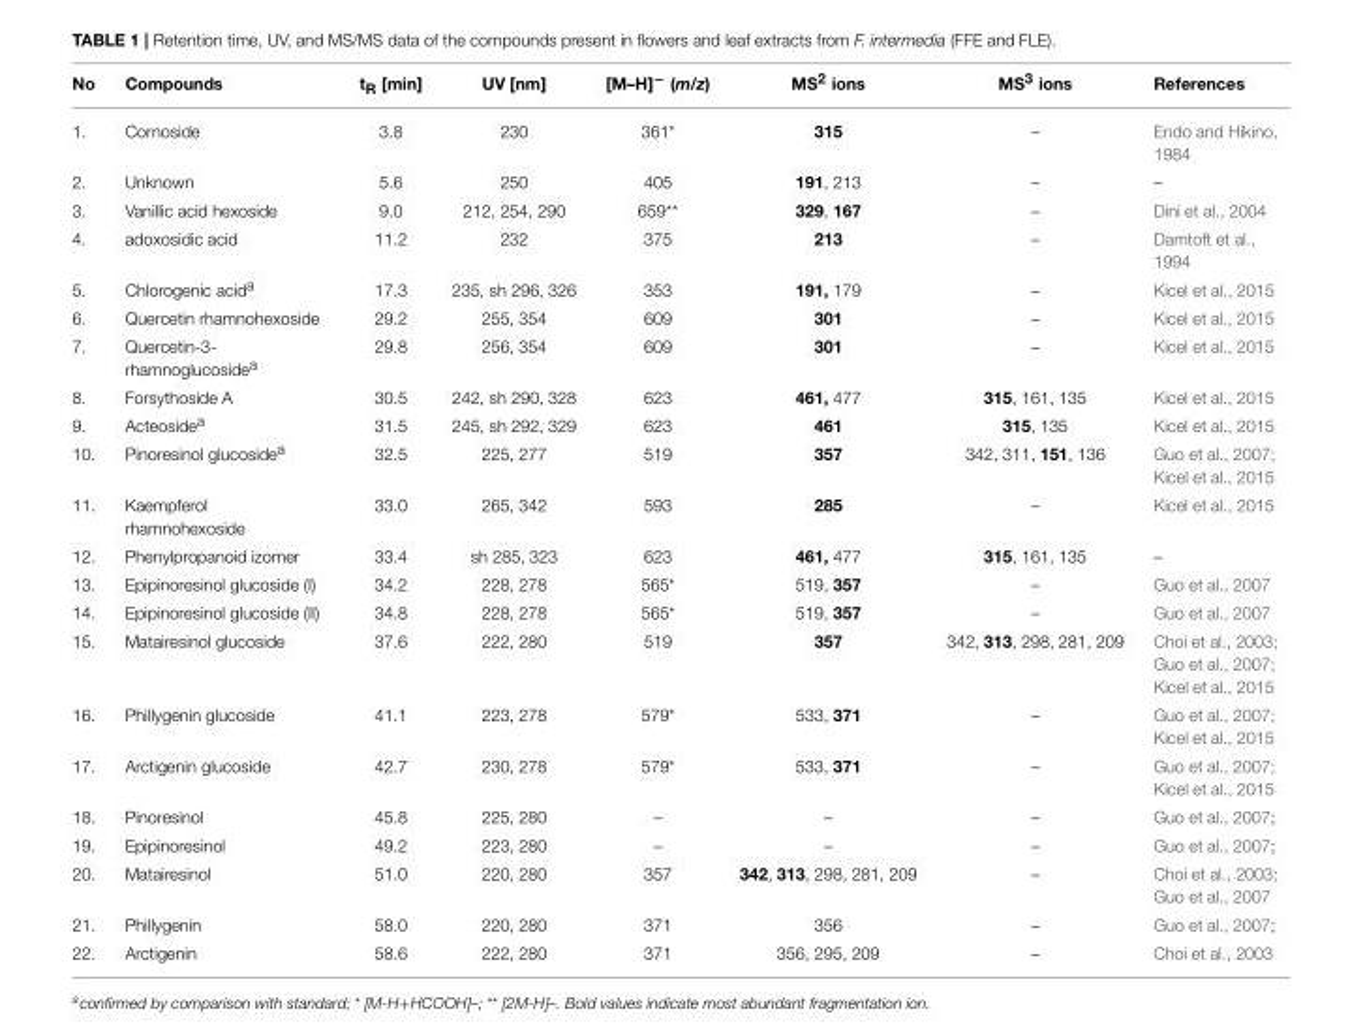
<table><thead><tr><td>No</td><td>Compounds</td><td>t<sub>R</sub> [min]</td><td>UV [nm]</td><td>[M–H]<sup>−</sup> (m/z)</td><td>MS<sup>2</sup> ions</td><td>MS<sup>3</sup> ions</td><td>References</td></tr></thead><tbody><tr><td>1.</td><td>Cornoside</td><td>3.8</td><td>230</td><td>361*</td><td>315</td><td>–</td><td>Endo and Hikino, 1984</td></tr><tr><td>2.</td><td>Unknown</td><td>5.6</td><td>250</td><td>405</td><td>191, 213</td><td>–</td><td>–</td></tr><tr><td>3.</td><td>Vanillic acid hexoside</td><td>9.0</td><td>212, 254, 290</td><td>659**</td><td>329, 167</td><td>–</td><td>Dini et al., 2004</td></tr><tr><td>4.</td><td>adoxosidic acid</td><td>11.2</td><td>232</td><td>375</td><td>213</td><td>–</td><td>Damtoft et al., 1994</td></tr><tr><td>5.</td><td>Chlorogenic acid<sup>a</sup></td><td>17.3</td><td>235, sh 296, 326</td><td>353</td><td>191, 179</td><td>–</td><td>Kicel et al., 2015</td></tr><tr><td>6.</td><td>Quercetin rhamnohexoside</td><td>29.2</td><td>255, 354</td><td>609</td><td>301</td><td>–</td><td>Kicel et al., 2015</td></tr><tr><td>7.</td><td>Quercetin-3- rhamnoglucoside<sup>a</sup></td><td>29.8</td><td>256, 354</td><td>609</td><td>301</td><td>–</td><td>Kicel et al., 2015</td></tr><tr><td>8.</td><td>Forsythoside A</td><td>30.5</td><td>242, sh 290, 328</td><td>623</td><td>461, 477</td><td>315, 161, 135</td><td>Kicel et al., 2015</td></tr><tr><td>9.</td><td>Acteoside<sup>a</sup></td><td>31.5</td><td>245, sh 292, 329</td><td>623</td><td>461</td><td>315, 135</td><td>Kicel et al., 2015</td></tr><tr><td>10.</td><td>Pinoresinol glucoside<sup>a</sup></td><td>32.5</td><td>225, 277</td><td>519</td><td>357</td><td>342, 311, 151, 136</td><td>Guo et al., 2007; Kicel et al., 2015</td></tr><tr><td>11.</td><td>Kaempferol rhamnohexoside</td><td>33.0</td><td>265, 342</td><td>593</td><td>285</td><td>–</td><td>Kicel et al., 2015</td></tr><tr><td>12.</td><td>Phenylpropanoid izomer</td><td>33.4</td><td>sh 285, 323</td><td>623</td><td>461, 477</td><td>315, 161, 135</td><td>–</td></tr><tr><td>13.</td><td>Epipinoresinol glucoside (I)</td><td>34.2</td><td>228, 278</td><td>565*</td><td>519, 357</td><td>–</td><td>Guo et al., 2007</td></tr><tr><td>14.</td><td>Epipinoresinol glucoside (II)</td><td>34.8</td><td>228, 278</td><td>565*</td><td>519, 357</td><td>–</td><td>Guo et al., 2007</td></tr><tr><td>15.</td><td>Matairesinol glucoside</td><td>37.6</td><td>222, 280</td><td>519</td><td>357</td><td>342, 313, 298, 281, 209</td><td>Choi et al., 2003; Guo et al., 2007; Kicel et al., 2015</td></tr><tr><td>16.</td><td>Phillygenin glucoside</td><td>41.1</td><td>223, 278</td><td>579*</td><td>533, 371</td><td>–</td><td>Guo et al., 2007; Kicel et al., 2015</td></tr><tr><td>17.</td><td>Arctigenin glucoside</td><td>42.7</td><td>230, 278</td><td>579*</td><td>533, 371</td><td>–</td><td>Guo et al., 2007; Kicel et al., 2015</td></tr><tr><td>18.</td><td>Pinoresinol</td><td>45.8</td><td>225, 280</td><td>–</td><td>–</td><td>–</td><td>Guo et al., 2007;</td></tr><tr><td>19.</td><td>Epipinoresinol</td><td>49.2</td><td>223, 280</td><td>–</td><td>–</td><td>–</td><td>Guo et al., 2007;</td></tr><tr><td>20.</td><td>Matairesinol</td><td>51.0</td><td>220, 280</td><td>357</td><td>342, 313, 298, 281, 209</td><td>–</td><td>Choi et al., 2003; Guo et al., 2007</td></tr><tr><td>21.</td><td>Phillygenin</td><td>58.0</td><td>220, 280</td><td>371</td><td>356</td><td>–</td><td>Guo et al., 2007;</td></tr><tr><td>22.</td><td>Arctigenin</td><td>58.6</td><td>222, 280</td><td>371</td><td>356, 295, 209</td><td>–</td><td>Choi et al., 2003</td></tr></tbody></table>